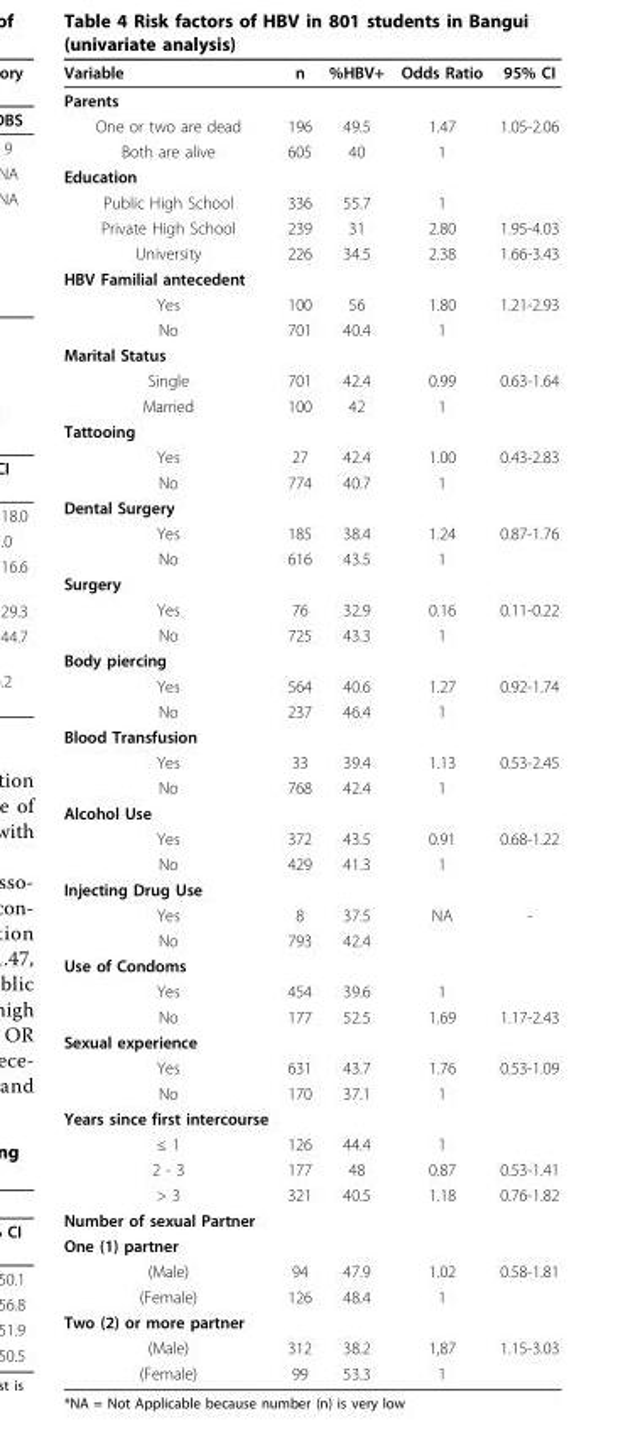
<table><thead><tr><td>Variable</td><td>n</td><td>%HBV+</td><td>Odds Ratio</td><td>95% CI</td></tr></thead><tbody><tr><td colspan="5">Parents</td></tr><tr><td>One or two are dead</td><td>196</td><td>49.5</td><td>1.47</td><td>1.05-2.06</td></tr><tr><td>Both are alive</td><td>605</td><td>40</td><td>1</td><td></td></tr><tr><td colspan="5">Education</td></tr><tr><td>Public High School</td><td>336</td><td>55.7</td><td>1</td><td></td></tr><tr><td>Private High School</td><td>239</td><td>31</td><td>2.80</td><td>1.95-4.03</td></tr><tr><td>University</td><td>226</td><td>34.5</td><td>2.38</td><td>1.66-3.43</td></tr><tr><td colspan="5">HBV Familial antecedent</td></tr><tr><td>Yes</td><td>100</td><td>56</td><td>1.80</td><td>1.21-2.93</td></tr><tr><td>No</td><td>701</td><td>40.4</td><td>1</td><td></td></tr><tr><td colspan="5">Marital Status</td></tr><tr><td>Single</td><td>701</td><td>42.4</td><td>0.99</td><td>0.63-1.64</td></tr><tr><td>Married</td><td>100</td><td>42</td><td>1</td><td></td></tr><tr><td colspan="5">Tattooing</td></tr><tr><td>Yes</td><td>27</td><td>42.4</td><td>1.00</td><td>0.43-2.83</td></tr><tr><td>No</td><td>774</td><td>40.7</td><td>1</td><td></td></tr><tr><td colspan="5">Dental Surgery</td></tr><tr><td>Yes</td><td>185</td><td>38.4</td><td>1.24</td><td>0.87-1.76</td></tr><tr><td>No</td><td>616</td><td>43.5</td><td>1</td><td></td></tr><tr><td colspan="5">Surgery</td></tr><tr><td>Yes</td><td>76</td><td>32.9</td><td>0.16</td><td>0.11-0.22</td></tr><tr><td>No</td><td>725</td><td>43.3</td><td>1</td><td></td></tr><tr><td colspan="5">Body piercing</td></tr><tr><td>Yes</td><td>564</td><td>40.6</td><td>1.27</td><td>0.92-1.74</td></tr><tr><td>No</td><td>237</td><td>46.4</td><td>1</td><td></td></tr><tr><td colspan="5">Blood Transfusion</td></tr><tr><td>Yes</td><td>33</td><td>39.4</td><td>1.13</td><td>0.53-2.45</td></tr><tr><td>No</td><td>768</td><td>42.4</td><td>1</td><td></td></tr><tr><td colspan="5">Alcohol Use</td></tr><tr><td>Yes</td><td>372</td><td>43.5</td><td>0.91</td><td>0.68-1.22</td></tr><tr><td>No</td><td>429</td><td>41.3</td><td>1</td><td></td></tr><tr><td colspan="5">Injecting Drug Use</td></tr><tr><td>Yes</td><td>8</td><td>37.5</td><td>NA</td><td>-</td></tr><tr><td>No</td><td>793</td><td>42.4</td><td></td><td></td></tr><tr><td colspan="5">Use of Condoms</td></tr><tr><td>Yes</td><td>454</td><td>39.6</td><td>1</td><td></td></tr><tr><td>No</td><td>177</td><td>52.5</td><td>1.69</td><td>1.17-2.43</td></tr><tr><td colspan="5">Sexual experience</td></tr><tr><td>Yes</td><td>631</td><td>43.7</td><td>1.76</td><td>0.53-1.09</td></tr><tr><td>No</td><td>170</td><td>37.1</td><td>1</td><td></td></tr><tr><td colspan="5">Years since first intercourse</td></tr><tr><td>≤ 1</td><td>126</td><td>44.4</td><td>1</td><td></td></tr><tr><td>2 - 3</td><td>177</td><td>48</td><td>0.87</td><td>0.53-1.41</td></tr><tr><td>&gt; 3</td><td>321</td><td>40.5</td><td>1.18</td><td>0.76-1.82</td></tr><tr><td colspan="5">Number of sexual Partner</td></tr><tr><td colspan="5">One (1) partner</td></tr><tr><td>(Male)</td><td>94</td><td>47.9</td><td>1.02</td><td>0.58-1.81</td></tr><tr><td>(Female)</td><td>126</td><td>48.4</td><td>1</td><td></td></tr><tr><td colspan="5">Two (2) or more partner</td></tr><tr><td>(Male)</td><td>312</td><td>38.2</td><td>1,87</td><td>1.15-3.03</td></tr><tr><td>(Female)</td><td>99</td><td>53.3</td><td>1</td><td></td></tr></tbody></table>